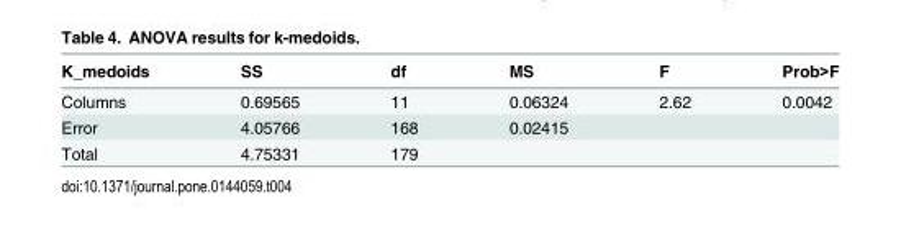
<table><thead><tr><td>K_medoids</td><td>SS</td><td>df</td><td>MS</td><td>F</td><td>Prob&gt;F</td></tr></thead><tbody><tr><td>Columns</td><td>0.69565</td><td>11</td><td>0.06324</td><td>2.62</td><td>0.0042</td></tr><tr><td>Error</td><td>4.05766</td><td>168</td><td>0.02415</td><td></td><td></td></tr><tr><td>Total</td><td>4.75331</td><td>179</td><td></td><td></td><td></td></tr></tbody></table>